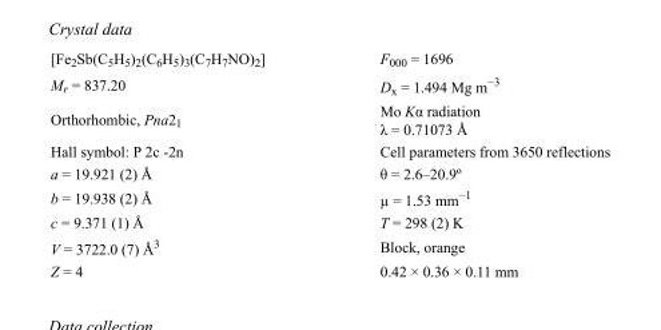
<table><tbody><tr><td>[Fe<sub>2</sub>Sb(C<sub>5</sub>H<sub>5</sub>)<sub>2</sub>(C<sub>6</sub>H<sub>5</sub>)<sub>3</sub>(C<sub>7</sub>H<sub>7</sub>NO)<sub>2</sub>]</td><td>F000 = 1696</td></tr><tr><td>M<sub>r</sub> = 837.20</td><td>D<sub>x</sub> = 1.494 Mg m<sup>−3</sup></td></tr><tr><td>Orthorhombic, Pna2<sub>1</sub></td><td>Mo Kα radiation λ = 0.71073 Å</td></tr><tr><td>Hall symbol: P 2c -2n</td><td>Cell parameters from 3650 reflections</td></tr><tr><td>a = 19.921 (2) Å</td><td>θ = 2.6–20.9º</td></tr><tr><td>b = 19.938 (2) Å</td><td>µ = 1.53 mm<sup>−1</sup></td></tr><tr><td>c = 9.371 (1) Å</td><td>T = 298 (2) K</td></tr><tr><td>V = 3722.0 (7) Å<sup>3</sup></td><td>Block, orange</td></tr><tr><td>Z = 4</td><td>0.42 × 0.36 × 0.11 mm</td></tr></tbody></table>